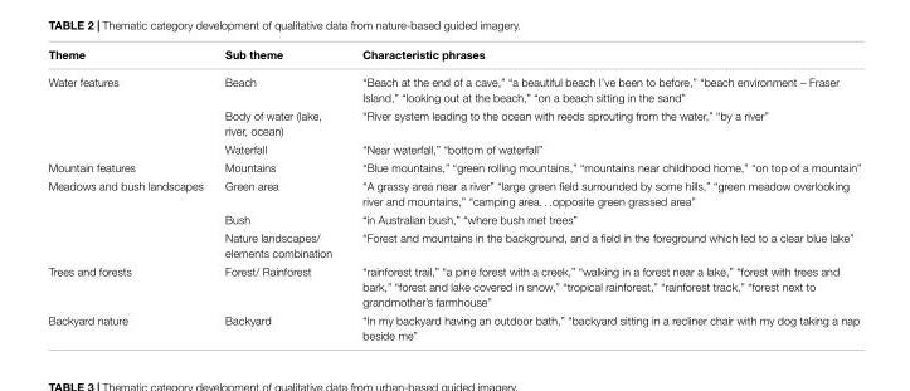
<table><thead><tr><td>Theme</td><td>Sub theme</td><td>Characteristic phrases</td></tr></thead><tbody><tr><td rowspan="3">Water features</td><td>Beach</td><td>“Beach at the end of a cave,” “a beautiful beach I’ve been to before,” “beach environment – Fraser Island,” “looking out at the beach,” “on a beach sitting in the sand”</td></tr><tr><td>Body of water (lake, river, ocean)</td><td>“River system leading to the ocean with reeds sprouting from the water,” “by a river”</td></tr><tr><td>Waterfall</td><td>“Near waterfall,” “bottom of waterfall”</td></tr><tr><td>Mountain features</td><td>Mountains</td><td>“Blue mountains,” “green rolling mountains,” “mountains near childhood home,” “on top of a mountain”</td></tr><tr><td rowspan="3">Meadows and bush landscapes</td><td>Green area</td><td>“A grassy area near a river” “large green field surrounded by some hills,” “green meadow overlooking river and mountains,” “camping area. . .opposite green grassed area”</td></tr><tr><td>Bush</td><td>“in Australian bush,” “where bush met trees”</td></tr><tr><td>Nature landscapes/ elements combination</td><td>“Forest and mountains in the background, and a field in the foreground which led to a clear blue lake”</td></tr><tr><td>Trees and forests</td><td>Forest/ Rainforest</td><td>“rainforest trail,” “a pine forest with a creek,” “walking in a forest near a lake,” “forest with trees and bark,” “forest and lake covered in snow,” “tropical rainforest,” “rainforest track,” “forest next to grandmother’s farmhouse”</td></tr><tr><td>Backyard nature</td><td>Backyard</td><td>“In my backyard having an outdoor bath,” “backyard sitting in a recliner chair with my dog taking a nap beside me”</td></tr></tbody></table>